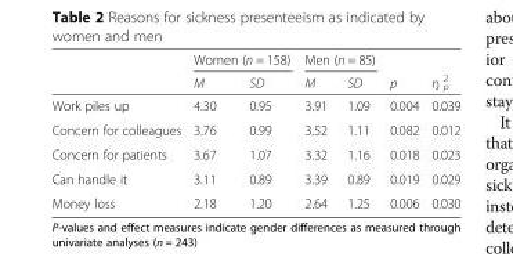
<table><thead><tr><td rowspan="2"></td><td colspan="2">Women (n = 158)</td><td colspan="2">Men (n = 85)</td><td rowspan="2">p</td><td rowspan="2">ŋ <sub>p</sub> <sup>2</sup></td></tr><tr><td>M</td><td>SD</td><td>M</td><td>SD</td></tr></thead><tbody><tr><td>Work piles up</td><td>4.30</td><td>0.95</td><td>3.91</td><td>1.09</td><td>0.004</td><td>0.039</td></tr><tr><td>Concern for colleagues</td><td>3.76</td><td>0.99</td><td>3.52</td><td>1.11</td><td>0.082</td><td>0.012</td></tr><tr><td>Concern for patients</td><td>3.67</td><td>1.07</td><td>3.32</td><td>1.16</td><td>0.018</td><td>0.023</td></tr><tr><td>Can handle it</td><td>3.11</td><td>0.89</td><td>3.39</td><td>0.89</td><td>0.019</td><td>0.029</td></tr><tr><td>Money loss</td><td>2.18</td><td>1.20</td><td>2.64</td><td>1.25</td><td>0.006</td><td>0.030</td></tr></tbody></table>